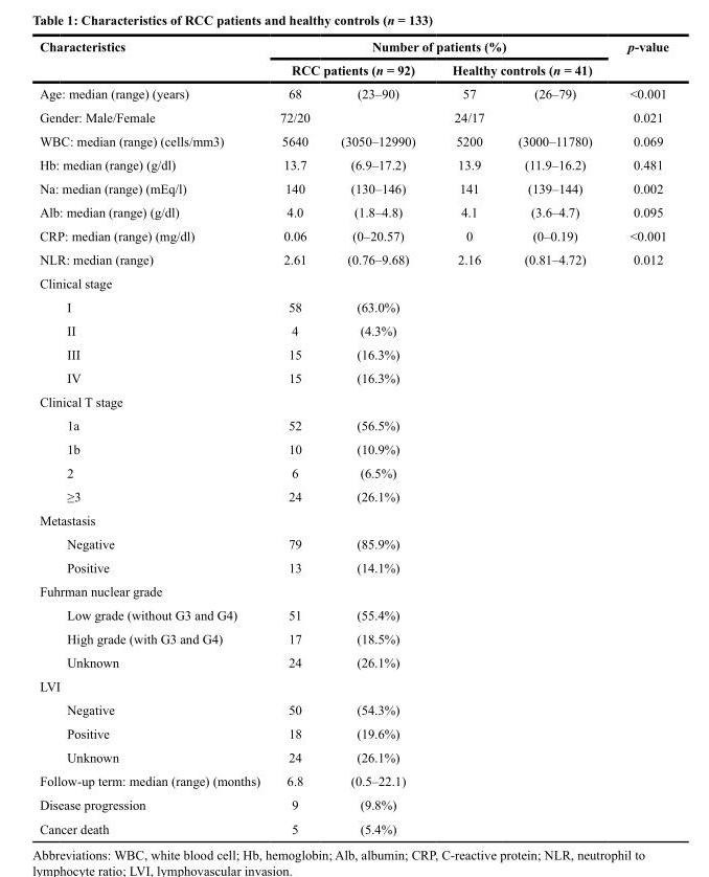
<table><thead><tr><td rowspan="3">Characteristics Age: median (range) (years)</td><td colspan="4">Number of patients (%)</td><td rowspan="3">p-value &lt;0.001</td></tr><tr><td colspan="2">RCC patients (n = 92)</td><td colspan="2">Healthy controls (n = 41)</td></tr><tr><td>68</td><td>(23–90)</td><td>57</td><td>(26–79)</td></tr></thead><tbody><tr><td>Gender: Male/Female</td><td>72/20</td><td></td><td>24/17</td><td></td><td>0.021</td></tr><tr><td>WBC: median (range) (cells/mm3)</td><td>5640</td><td>(3050–12990)</td><td>5200</td><td>(3000–11780)</td><td>0.069</td></tr><tr><td>Hb: median (range) (g/dl)</td><td>13.7</td><td>(6.9–17.2)</td><td>13.9</td><td>(11.9–16.2)</td><td>0.481</td></tr><tr><td>Na: median (range) (mEq/l)</td><td>140</td><td>(130–146)</td><td>141</td><td>(139–144)</td><td>0.002</td></tr><tr><td>Alb: median (range) (g/dl)</td><td>4.0</td><td>(1.8–4.8)</td><td>4.1</td><td>(3.6–4.7)</td><td>0.095</td></tr><tr><td>CRP: median (range) (mg/dl)</td><td>0.06</td><td>(0–20.57)</td><td>0</td><td>(0–0.19)</td><td>&lt;0.001</td></tr><tr><td>NLR: median (range)</td><td>2.61</td><td>(0.76–9.68)</td><td>2.16</td><td>(0.81–4.72)</td><td>0.012</td></tr><tr><td colspan="6">Clinical stage</td></tr><tr><td>I</td><td>58</td><td>(63.0%)</td><td></td><td></td><td></td></tr><tr><td>II</td><td>4</td><td>(4.3%)</td><td></td><td></td><td></td></tr><tr><td>III</td><td>15</td><td>(16.3%)</td><td></td><td></td><td></td></tr><tr><td>IV</td><td>15</td><td>(16.3%)</td><td></td><td></td><td></td></tr><tr><td colspan="6">Clinical T stage</td></tr><tr><td>1a</td><td>52</td><td>(56.5%)</td><td></td><td></td><td></td></tr><tr><td>1b</td><td>10</td><td>(10.9%)</td><td></td><td></td><td></td></tr><tr><td>2</td><td>6</td><td>(6.5%)</td><td></td><td></td><td></td></tr><tr><td>≥3</td><td>24</td><td>(26.1%)</td><td></td><td></td><td></td></tr><tr><td colspan="6">Metastasis</td></tr><tr><td>Negative</td><td>79</td><td>(85.9%)</td><td></td><td></td><td></td></tr><tr><td>Positive</td><td>13</td><td>(14.1%)</td><td></td><td></td><td></td></tr><tr><td colspan="6">Fuhrman nuclear grade</td></tr><tr><td>Low grade (without G3 and G4)</td><td>51</td><td>(55.4%)</td><td></td><td></td><td></td></tr><tr><td>High grade (with G3 and G4)</td><td>17</td><td>(18.5%)</td><td></td><td></td><td></td></tr><tr><td>Unknown</td><td>24</td><td>(26.1%)</td><td></td><td></td><td></td></tr><tr><td colspan="6">LVI</td></tr><tr><td>Negative</td><td>50</td><td>(54.3%)</td><td></td><td></td><td></td></tr><tr><td>Positive</td><td>18</td><td>(19.6%)</td><td></td><td></td><td></td></tr><tr><td>Unknown</td><td>24</td><td>(26.1%)</td><td></td><td></td><td></td></tr><tr><td>Follow-up term: median (range) (months)</td><td>6.8</td><td>(0.5–22.1)</td><td></td><td></td><td></td></tr><tr><td>Disease progression</td><td>9</td><td>(9.8%)</td><td></td><td></td><td></td></tr><tr><td>Cancer death</td><td>5</td><td>(5.4%)</td><td></td><td></td><td></td></tr></tbody></table>